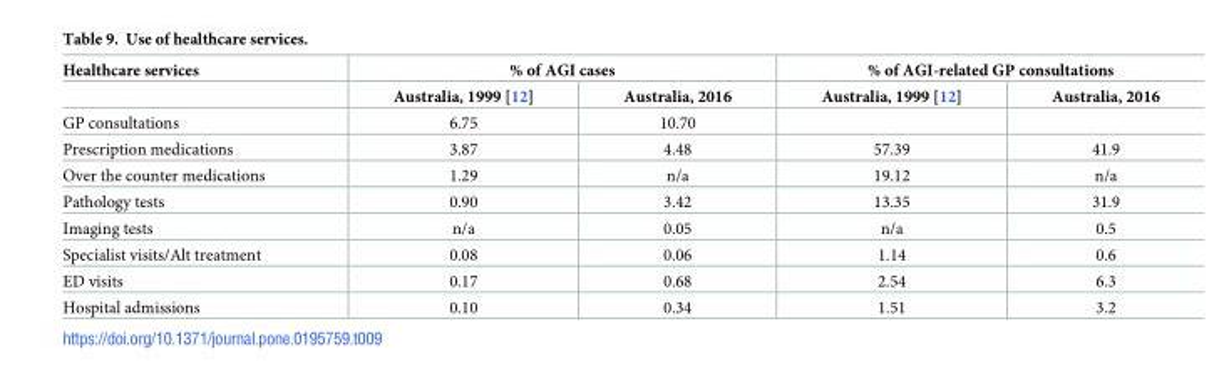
<table><thead><tr><td rowspan="2">Healthcare services</td><td colspan="2">% of AGI cases</td><td colspan="2">% of AGI-related GP consultations</td></tr><tr><td>Australia, 1999 [12]</td><td>Australia, 2016</td><td>Australia, 1999 [12]</td><td>Australia, 2016</td></tr></thead><tbody><tr><td>GP consultations</td><td>6.75</td><td>10.70</td><td></td><td></td></tr><tr><td>Prescription medications</td><td>3.87</td><td>4.48</td><td>57.39</td><td>41.9</td></tr><tr><td>Over the counter medications</td><td>1.29</td><td>n/a</td><td>19.12</td><td>n/a</td></tr><tr><td>Pathology tests</td><td>0.90</td><td>3.42</td><td>13.35</td><td>31.9</td></tr><tr><td>Imaging tests</td><td>n/a</td><td>0.05</td><td>n/a</td><td>0.5</td></tr><tr><td>Specialist visits/Alt treatment</td><td>0.08</td><td>0.06</td><td>1.14</td><td>0.6</td></tr><tr><td>ED visits</td><td>0.17</td><td>0.68</td><td>2.54</td><td>6.3</td></tr><tr><td>Hospital admissions</td><td>0.10</td><td>0.34</td><td>1.51</td><td>3.2</td></tr></tbody></table>